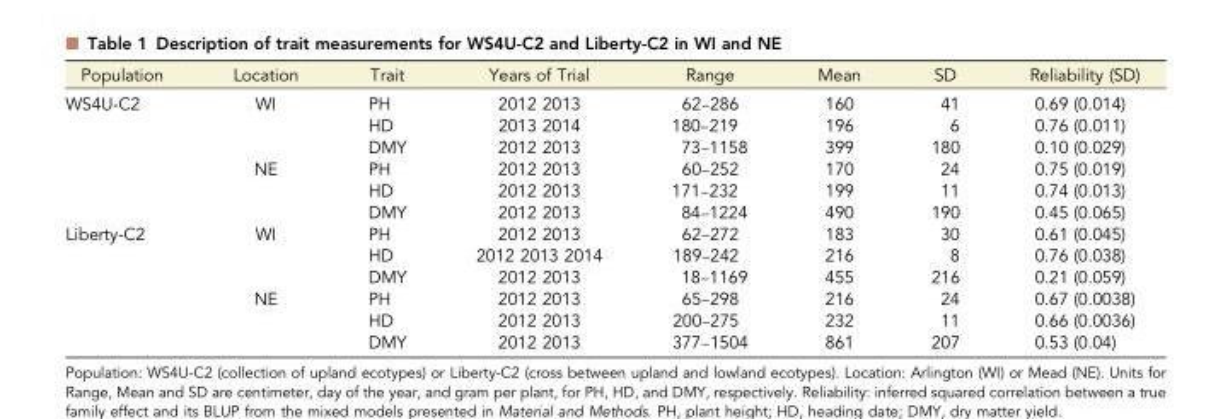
<table><thead><tr><td>Population</td><td>Location</td><td>Trait</td><td>Years of Trial</td><td>Range</td><td>Mean</td><td>SD</td><td>Reliability (SD)</td></tr></thead><tbody><tr><td rowspan="6">WS4U-C2</td><td rowspan="3">WI</td><td>PH</td><td>2012 2013</td><td>62–286</td><td>160</td><td>41</td><td>0.69 (0.014)</td></tr><tr><td>HD</td><td>2013 2014</td><td>180–219</td><td>196</td><td>6</td><td>0.76 (0.011)</td></tr><tr><td>DMY</td><td>2012 2013</td><td>73–1158</td><td>399</td><td>180</td><td>0.10 (0.029)</td></tr><tr><td rowspan="3">NE</td><td>PH</td><td>2012 2013</td><td>60–252</td><td>170</td><td>24</td><td>0.75 (0.019)</td></tr><tr><td>HD</td><td>2012 2013</td><td>171–232</td><td>199</td><td>11</td><td>0.74 (0.013)</td></tr><tr><td>DMY</td><td>2012 2013</td><td>84–1224</td><td>490</td><td>190</td><td>0.45 (0.065)</td></tr><tr><td rowspan="6">Liberty-C2</td><td rowspan="3">WI</td><td>PH</td><td>2012 2013</td><td>62–272</td><td>183</td><td>30</td><td>0.61 (0.045)</td></tr><tr><td>HD</td><td>2012 2013 2014</td><td>189–242</td><td>216</td><td>8</td><td>0.76 (0.038)</td></tr><tr><td>DMY</td><td>2012 2013</td><td>18–1169</td><td>455</td><td>216</td><td>0.21 (0.059)</td></tr><tr><td rowspan="3">NE</td><td>PH</td><td>2012 2013</td><td>65–298</td><td>216</td><td>24</td><td>0.67 (0.0038)</td></tr><tr><td>HD</td><td>2012 2013</td><td>200–275</td><td>232</td><td>11</td><td>0.66 (0.0036)</td></tr><tr><td>DMY</td><td>2012 2013</td><td>377–1504</td><td>861</td><td>207</td><td>0.53 (0.04)</td></tr></tbody></table>